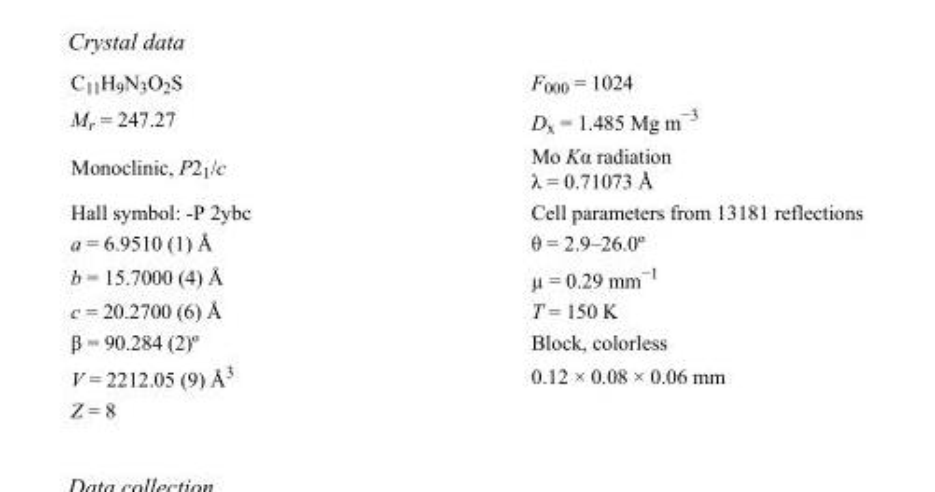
<table><tbody><tr><td>C<sub>11</sub>H<sub>9</sub>N<sub>3</sub>O<sub>2</sub>S</td><td>F000 = 1024</td></tr><tr><td>M<sub>r</sub> = 247.27</td><td>D<sub>x</sub> = 1.485 Mg m<sup>−3</sup></td></tr><tr><td>Monoclinic, P2<sub>1</sub>/c</td><td>Mo Kα radiation λ = 0.71073 Å</td></tr><tr><td>Hall symbol: -P 2ybc</td><td>Cell parameters from 13181 reflections</td></tr><tr><td>a = 6.9510 (1) Å</td><td>θ = 2.9–26.0º</td></tr><tr><td>b = 15.7000 (4) Å</td><td>µ = 0.29 mm−1</td></tr><tr><td>c = 20.2700 (6) Å</td><td>T = 150 K</td></tr><tr><td>β = 90.284 (2)º</td><td>Block, colorless</td></tr><tr><td>V = 2212.05 (9) Å<sup>3</sup></td><td>0.12 × 0.08 × 0.06 mm</td></tr><tr><td>Z = 8</td><td></td></tr></tbody></table>